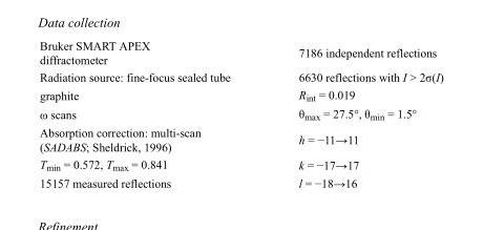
<table><tbody><tr><td>Bruker SMART APEX diffractometer</td><td>7186 independent reflections</td></tr><tr><td>Radiation source: fine-focus sealed tube</td><td>6630 reflections with I &gt; 2σ(I)</td></tr><tr><td>graphite</td><td>R<sub>int</sub> = 0.019</td></tr><tr><td>ω scans</td><td>θ<sub>max</sub> = 27.5°, θ<sub>min</sub> = 1.5°</td></tr><tr><td>Absorption correction: multi-scan (SADABS; Sheldrick, 1996)</td><td>h = −11→11</td></tr><tr><td>T<sub>min</sub> = 0.572, T<sub>max</sub> = 0.841</td><td>k = −17→17</td></tr><tr><td>15157 measured reflections</td><td>l = −18→16</td></tr></tbody></table>